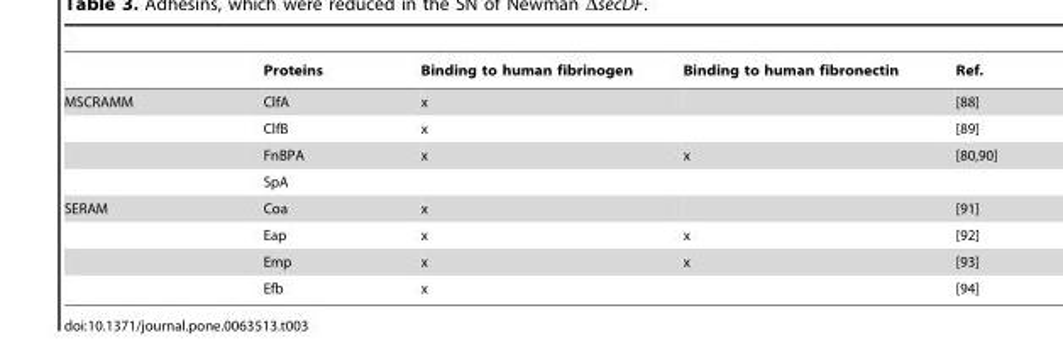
<table><thead><tr><td></td><td>Proteins</td><td>Binding to human fibrinogen</td><td>Binding to human fibronectin</td><td>Ref.</td></tr></thead><tbody><tr><td rowspan="4">MSCRAMM</td><td>ClfA</td><td>x</td><td></td><td>[88]</td></tr><tr><td>ClfB</td><td>x</td><td></td><td>[89]</td></tr><tr><td>FnBPA</td><td>x</td><td>x</td><td>[80,90]</td></tr><tr><td>SpA</td><td></td><td></td><td></td></tr><tr><td rowspan="4">SERAM</td><td>Coa</td><td>x</td><td></td><td>[91]</td></tr><tr><td>Eap</td><td>x</td><td>x</td><td>[92]</td></tr><tr><td>Emp</td><td>x</td><td>x</td><td>[93]</td></tr><tr><td>Efb</td><td>x</td><td></td><td>[94]</td></tr></tbody></table>